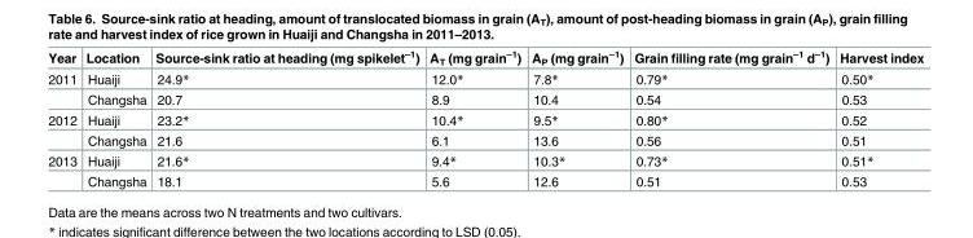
<table><thead><tr><td>Year</td><td>Location</td><td>Source-sink ratio at heading (mg spikelet<sup>–1</sup>)</td><td>A<sub>T</sub> (mg grain<sup>–1</sup>)</td><td>A<sub>P</sub> (mg grain<sup>–1</sup>)</td><td>Grain filling rate (mg grain<sup>–1</sup> d<sup>–1</sup>)</td><td>Harvest index</td></tr></thead><tbody><tr><td rowspan="2">2011</td><td>Huaiji</td><td>24.9*</td><td>12.0*</td><td>7.8*</td><td>0.79*</td><td>0.50*</td></tr><tr><td>Changsha</td><td>20.7</td><td>8.9</td><td>10.4</td><td>0.54</td><td>0.53</td></tr><tr><td rowspan="2">2012</td><td>Huaiji</td><td>23.2*</td><td>10.4*</td><td>9.5*</td><td>0.80*</td><td>0.52</td></tr><tr><td>Changsha</td><td>21.6</td><td>6.1</td><td>13.6</td><td>0.56</td><td>0.51</td></tr><tr><td rowspan="2">2013</td><td>Huaiji</td><td>21.6*</td><td>9.4*</td><td>10.3*</td><td>0.73*</td><td>0.51*</td></tr><tr><td>Changsha</td><td>18.1</td><td>5.6</td><td>12.6</td><td>0.51</td><td>0.53</td></tr></tbody></table>